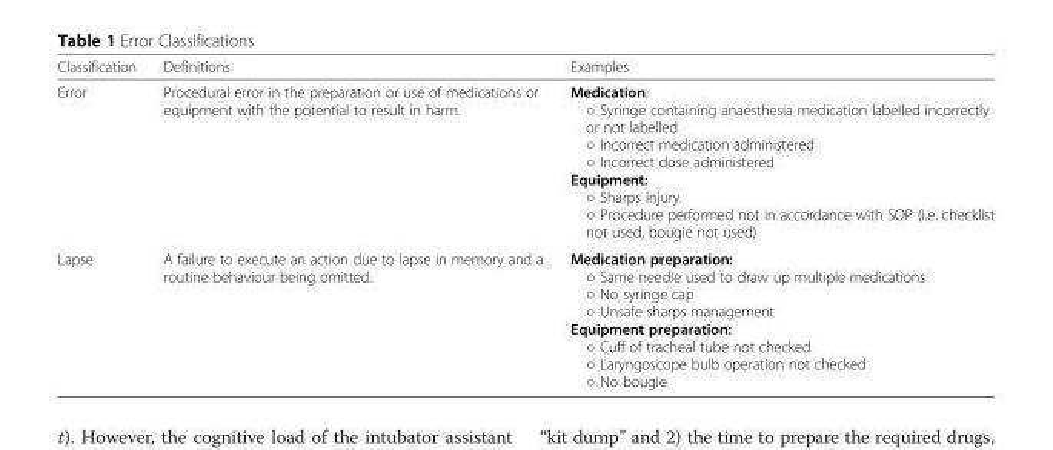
<table><thead><tr><td>Classification</td><td>Definitions</td><td>Examples</td></tr></thead><tbody><tr><td>Error</td><td>Procedural error in the preparation or use of medications or equipment with the potential to result in harm.</td><td>Medication: ○ Syringe containing anaesthesia medication labelled incorrectly or not labelled ○ Incorrect medication administered ○ Incorrect dose administered Equipment: ○ Sharps injury ○ Procedure performed not in accordance with SOP (i.e. checklist not used, bougie not used)</td></tr><tr><td>Lapse</td><td>A failure to execute an action due to lapse in memory and a routine behaviour being omitted.</td><td>Medication preparation: ○ Same needle used to draw up multiple medications ○ No syringe cap ○ Unsafe sharps management Equipment preparation: ○ Cuff of tracheal tube not checked ○ Laryngoscope bulb operation not checked ○ No bougie</td></tr></tbody></table>